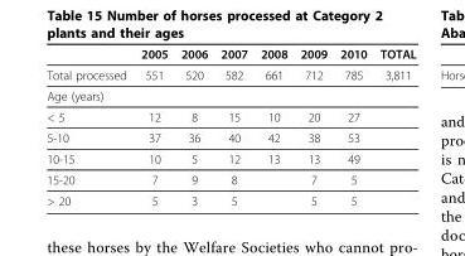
<table><thead><tr><td></td><td>2005</td><td>2006</td><td>2007</td><td>2008</td><td>2009</td><td>2010</td><td>TOTAL</td></tr></thead><tbody><tr><td>Total processed</td><td>551</td><td>520</td><td>582</td><td>661</td><td>712</td><td>785</td><td>3,811</td></tr><tr><td colspan="8">Age (years)</td></tr><tr><td>&lt; 5</td><td>12</td><td>8</td><td>15</td><td>10</td><td>20</td><td>27</td><td></td></tr><tr><td>5-10</td><td>37</td><td>36</td><td>40</td><td>42</td><td>38</td><td>53</td><td></td></tr><tr><td>10-15</td><td>10</td><td>5</td><td>12</td><td>13</td><td>13</td><td>49</td><td></td></tr><tr><td>15-20</td><td>7</td><td>9</td><td>8</td><td></td><td>7</td><td>5</td><td></td></tr><tr><td>&gt; 20</td><td>5</td><td>3</td><td>5</td><td></td><td>5</td><td>5</td><td></td></tr></tbody></table>